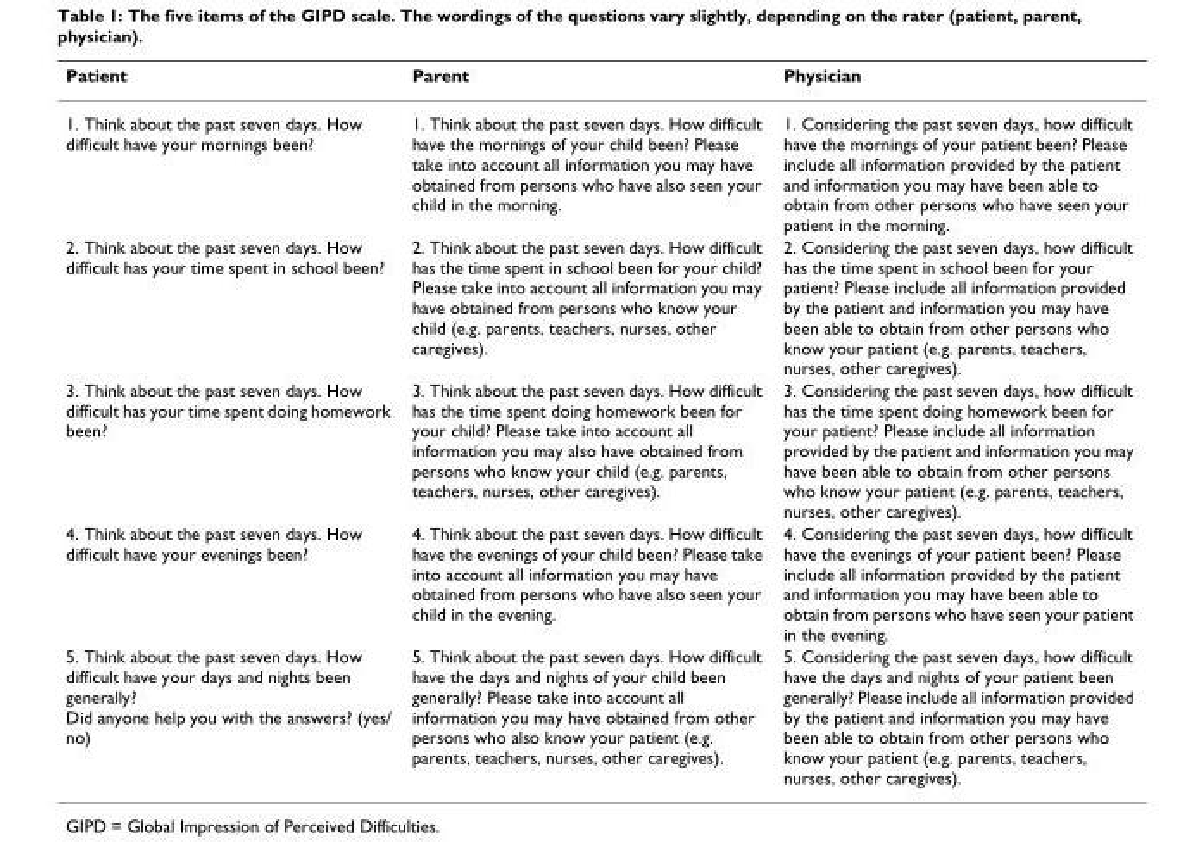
<table><thead><tr><td>Patient</td><td>Parent</td><td>Physician</td></tr></thead><tbody><tr><td>1. Think about the past seven days. How difficult have your mornings been?</td><td>1. Think about the past seven days. How difficult have the mornings of your child been? Please take into account all information you may have obtained from persons who have also seen your child in the morning.</td><td>1. Considering the past seven days, how difficult have the mornings of your patient been? Please include all information provided by the patient and information you may have been able to obtain from other persons who have seen your patient in the morning.</td></tr><tr><td>2. Think about the past seven days. How difficult has your time spent in school been?</td><td>2. Think about the past seven days. How difficult has the time spent in school been for your child? Please take into account all information you may have obtained from persons who know your child (e.g. parents, teachers, nurses, other caregives).</td><td>2. Considering the past seven days, how difficult has the time spent in school been for your patient? Please include all information provided by the patient and information you may have been able to obtain from other persons who know your patient (e.g. parents, teachers, nurses, other caregives).</td></tr><tr><td>3. Think about the past seven days. How difficult has your time spent doing homework been?</td><td>3. Think about the past seven days. How difficult has the time spent doing homework been for your child? Please take into account all information you may also have obtained from persons who know your child (e.g. parents, teachers, nurses, other caregives).</td><td>3. Considering the past seven days, how difficult has the time spent doing homework been for your patient? Please include all information provided by the patient and information you may have been able to obtain from other persons who know your patient (e.g. parents, teachers, nurses, other caregives).</td></tr><tr><td>4. Think about the past seven days. How difficult have your evenings been?</td><td>4. Think about the past seven days. How difficult have the evenings of your child been? Please take into account all information you may have obtained from persons who have also seen your child in the evening.</td><td>4. Considering the past seven days, how difficult have the evenings of your patient been? Please include all information provided by the patient and information you may have been able to obtain from persons who have seen your patient in the evening.</td></tr><tr><td>5. Think about the past seven days. How difficult have your days and nights been generally? Did anyone help you with the answers? (yes/ no)</td><td>5. Think about the past seven days. How difficult have the days and nights of your child been generally? Please take into account all information you may have obtained from other persons who also know your patient (e.g. parents, teachers, nurses, other caregives).</td><td>5. Considering the past seven days, how difficult have the days and nights of your patient been generally? Please include all information provided by the patient and information you may have been able to obtain from other persons who know your patient (e.g. parents, teachers, nurses, other caregives).</td></tr></tbody></table>